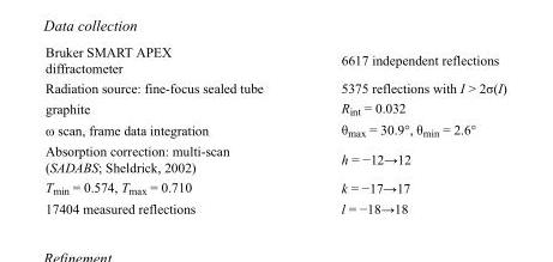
<table><tbody><tr><td>Bruker SMART APEX diffractometer</td><td>6617 independent reflections</td></tr><tr><td>Radiation source: fine-focus sealed tube</td><td>5375 reflections with I &gt; 2σ(I)</td></tr><tr><td>graphite</td><td>R<sub>int</sub> = 0.032</td></tr><tr><td>ω scan, frame data integration</td><td>θ<sub>max</sub> = 30.9°, θ<sub>min</sub> = 2.6°</td></tr><tr><td>Absorption correction: multi-scan (SADABS; Sheldrick, 2002)</td><td>h = −12→12</td></tr><tr><td>T<sub>min</sub> = 0.574, T<sub>max</sub> = 0.710</td><td>k = −17→17</td></tr><tr><td>17404 measured reflections</td><td>l = −18→18</td></tr></tbody></table>